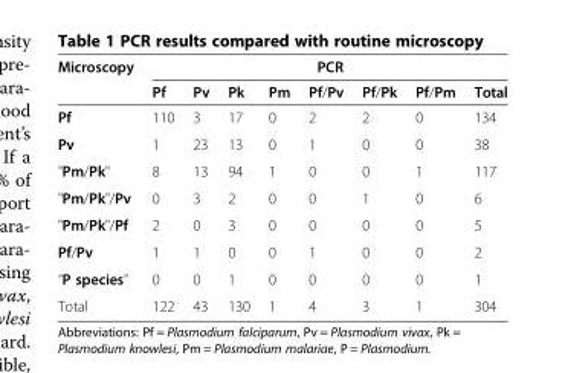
<table><thead><tr><td rowspan="2">Microscopy</td><td colspan="8">PCR</td></tr><tr><td>Pf</td><td>Pv</td><td>Pk</td><td>Pm</td><td>Pf/Pv</td><td>Pf/Pk</td><td>Pf/Pm</td><td>Total</td></tr></thead><tbody><tr><td>Pf</td><td>110</td><td>3</td><td>17</td><td>0</td><td>2</td><td>2</td><td>0</td><td>134</td></tr><tr><td>Pv</td><td>1</td><td>23</td><td>13</td><td>0</td><td>1</td><td>0</td><td>0</td><td>38</td></tr><tr><td>&quot;Pm/Pk&quot;</td><td>8</td><td>13</td><td>94</td><td>1</td><td>0</td><td>0</td><td>1</td><td>117</td></tr><tr><td>&quot;Pm/Pk&quot;/Pv</td><td>0</td><td>3</td><td>2</td><td>0</td><td>0</td><td>1</td><td>0</td><td>6</td></tr><tr><td>&quot;Pm/Pk&quot;/Pf</td><td>2</td><td>0</td><td>3</td><td>0</td><td>0</td><td>0</td><td>0</td><td>5</td></tr><tr><td>Pf/Pv</td><td>1</td><td>1</td><td>0</td><td>0</td><td>1</td><td>0</td><td>0</td><td>2</td></tr><tr><td>“P species”</td><td>0</td><td>0</td><td>1</td><td>0</td><td>0</td><td>0</td><td>0</td><td>1</td></tr><tr><td>Total</td><td>122</td><td>43</td><td>130</td><td>1</td><td>4</td><td>3</td><td>1</td><td>304</td></tr></tbody></table>